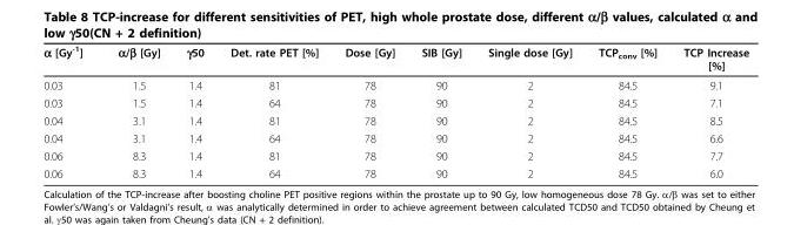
<table><thead><tr><td>α [Gy<sup>-1</sup>]</td><td>α/β [Gy]</td><td>γ50</td><td>Det. rate PET [%]</td><td>Dose [Gy]</td><td>SIB [Gy]</td><td>Single dose [Gy]</td><td>TCP<sub>conv</sub> [%]</td><td>TCP Increase [%]</td></tr></thead><tbody><tr><td>0.03</td><td>1.5</td><td>1.4</td><td>81</td><td>78</td><td>90</td><td>2</td><td>84.5</td><td>9.1</td></tr><tr><td>0.03</td><td>1.5</td><td>1.4</td><td>64</td><td>78</td><td>90</td><td>2</td><td>84.5</td><td>7.1</td></tr><tr><td>0.04</td><td>3.1</td><td>1.4</td><td>81</td><td>78</td><td>90</td><td>2</td><td>84.5</td><td>8.5</td></tr><tr><td>0.04</td><td>3.1</td><td>1.4</td><td>64</td><td>78</td><td>90</td><td>2</td><td>84.5</td><td>6.6</td></tr><tr><td>0.06</td><td>8.3</td><td>1.4</td><td>81</td><td>78</td><td>90</td><td>2</td><td>84.5</td><td>7.7</td></tr><tr><td>0.06</td><td>8.3</td><td>1.4</td><td>64</td><td>78</td><td>90</td><td>2</td><td>84.5</td><td>6.0</td></tr></tbody></table>